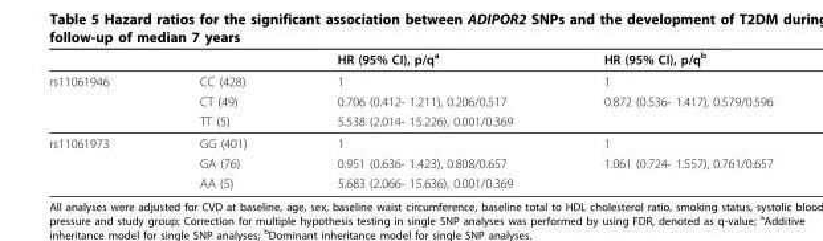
<table><thead><tr><td></td><td></td><td>HR (95% CI), p/q<sup>a</sup></td><td>HR (95% CI), p/q<sup>b</sup></td></tr></thead><tbody><tr><td rowspan="3">rs11061946</td><td>CC (428)</td><td>1</td><td>1</td></tr><tr><td>CT (49)</td><td>0.706 (0.412- 1.211), 0.206/0.517</td><td>0.872 (0.536- 1.417), 0.579/0.596</td></tr><tr><td>TT (5)</td><td>5.538 (2.014- 15.226), 0.001/0.369</td><td></td></tr><tr><td rowspan="3">rs11061973</td><td>GG (401)</td><td>1</td><td>1</td></tr><tr><td>GA (76)</td><td>0.951 (0.636- 1.423), 0.808/0.657</td><td>1.061 (0.724- 1.557), 0.761/0.657</td></tr><tr><td>AA (5)</td><td>5.683 (2.066- 15.636), 0.001/0.369</td><td></td></tr></tbody></table>